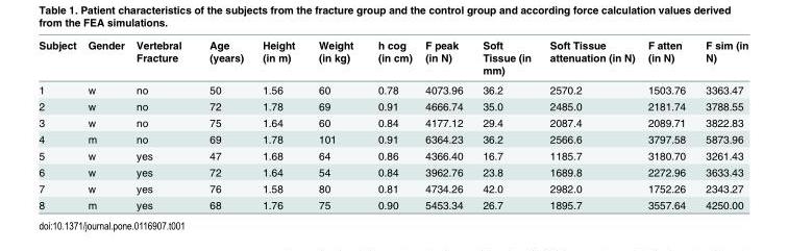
<table><thead><tr><td>Subject</td><td>Gender</td><td>Vertebral Fracture</td><td>Age (years)</td><td>Height (in m)</td><td>Weight (in kg)</td><td>h cog (in cm)</td><td>F peak (in N)</td><td>Soft Tissue (in mm)</td><td>Soft Tissue attenuation (in N)</td><td>F atten (in N)</td><td>F sim (in N)</td></tr></thead><tbody><tr><td>1</td><td>w</td><td>no</td><td>50</td><td>1.56</td><td>60</td><td>0.78</td><td>4073.96</td><td>36.2</td><td>2570.2</td><td>1503.76</td><td>3363.47</td></tr><tr><td>2</td><td>w</td><td>no</td><td>72</td><td>1.78</td><td>69</td><td>0.91</td><td>4666.74</td><td>35.0</td><td>2485.0</td><td>2181.74</td><td>3788.55</td></tr><tr><td>3</td><td>w</td><td>no</td><td>75</td><td>1.64</td><td>60</td><td>0.84</td><td>4177.12</td><td>29.4</td><td>2087.4</td><td>2089.71</td><td>3822.83</td></tr><tr><td>4</td><td>m</td><td>no</td><td>69</td><td>1.78</td><td>101</td><td>0.91</td><td>6364.23</td><td>36.2</td><td>2566.6</td><td>3797.58</td><td>5873.96</td></tr><tr><td>5</td><td>w</td><td>yes</td><td>47</td><td>1.68</td><td>64</td><td>0.86</td><td>4366.40</td><td>16.7</td><td>1185.7</td><td>3180.70</td><td>3261.43</td></tr><tr><td>6</td><td>w</td><td>yes</td><td>72</td><td>1.64</td><td>54</td><td>0.84</td><td>3962.76</td><td>23.8</td><td>1689.8</td><td>2272.96</td><td>3633.43</td></tr><tr><td>7</td><td>w</td><td>yes</td><td>76</td><td>1.58</td><td>80</td><td>0.81</td><td>4734.26</td><td>42.0</td><td>2982.0</td><td>1752.26</td><td>2343.27</td></tr><tr><td>8</td><td>m</td><td>yes</td><td>68</td><td>1.76</td><td>75</td><td>0.90</td><td>5453.34</td><td>26.7</td><td>1895.7</td><td>3557.64</td><td>4250.00</td></tr></tbody></table>